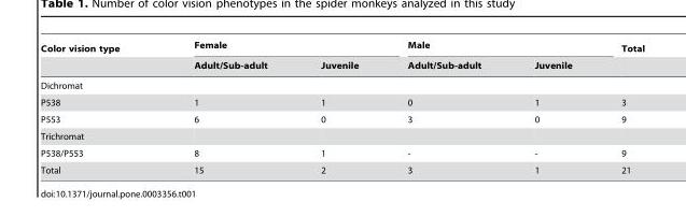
<table><thead><tr><td rowspan="2">Color vision type</td><td colspan="2">Female</td><td colspan="2">Male</td><td rowspan="2">Total</td></tr><tr><td>Adult/Sub-adult</td><td>Juvenile</td><td>Adult/Sub-adult</td><td>Juvenile</td></tr></thead><tbody><tr><td colspan="6">Dichromat</td></tr><tr><td>P538</td><td>1</td><td>1</td><td>0</td><td>1</td><td>3</td></tr><tr><td>P553</td><td>6</td><td>0</td><td>3</td><td>0</td><td>9</td></tr><tr><td colspan="6">Trichromat</td></tr><tr><td>P538/P553</td><td>8</td><td>1</td><td>-</td><td>-</td><td>9</td></tr><tr><td>Total</td><td>15</td><td>2</td><td>3</td><td>1</td><td>21</td></tr></tbody></table>